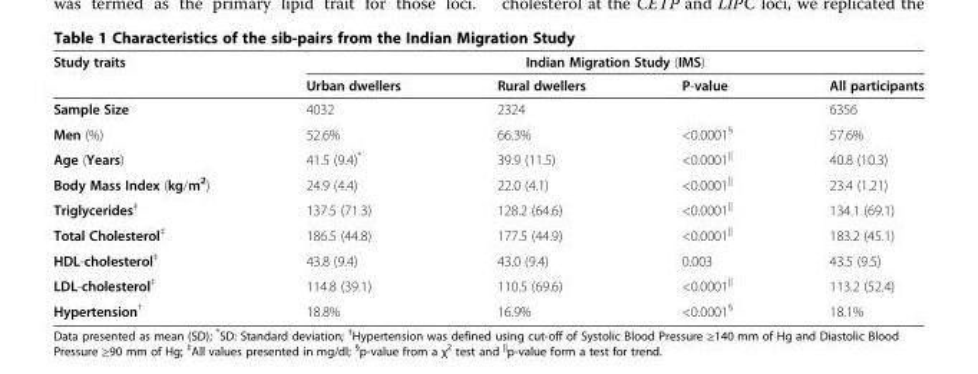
<table><thead><tr><td rowspan="2">Study traits</td><td colspan="4">Indian Migration Study (IMS)</td></tr><tr><td>Urban dwellers</td><td>Rural dwellers</td><td>P-value</td><td>All participants</td></tr></thead><tbody><tr><td>Sample Size</td><td>4032</td><td>2324</td><td></td><td>6356</td></tr><tr><td>Men (%)</td><td>52.6%</td><td>66.3%</td><td>&lt;0.0001<sup>§</sup></td><td>57.6%</td></tr><tr><td>Age (Years)</td><td>41.5 (9.4)*</td><td>39.9 (11.5)</td><td>&lt;0.0001<sup>||</sup></td><td>40.8 (10.3)</td></tr><tr><td>Body Mass Index (kg/m<sup>2</sup>)</td><td>24.9 (4.4)</td><td>22.0 (4.1)</td><td>&lt;0.0001<sup>||</sup></td><td>23.4 (1.21)</td></tr><tr><td>Triglycerides<sup>‡</sup></td><td>137.5 (71.3)</td><td>128.2 (64.6)</td><td>&lt;0.0001<sup>||</sup></td><td>134.1 (69.1)</td></tr><tr><td>Total Cholesterol<sup>‡</sup></td><td>186.5 (44.8)</td><td>177.5 (44.9)</td><td>&lt;0.0001<sup>||</sup></td><td>183.2 (45.1)</td></tr><tr><td>HDL-cholesterol<sup>‡</sup></td><td>43.8 (9.4)</td><td>43.0 (9.4)</td><td>0.003</td><td>43.5 (9.5)</td></tr><tr><td>LDL-cholesterol<sup>‡</sup></td><td>114.8 (39.1)</td><td>110.5 (69.6)</td><td>&lt;0.0001<sup>||</sup></td><td>113.2 (52.4)</td></tr><tr><td>Hypertension<sup>†</sup></td><td>18.8%</td><td>16.9%</td><td>&lt;0.0001<sup>§</sup></td><td>18.1%</td></tr></tbody></table>